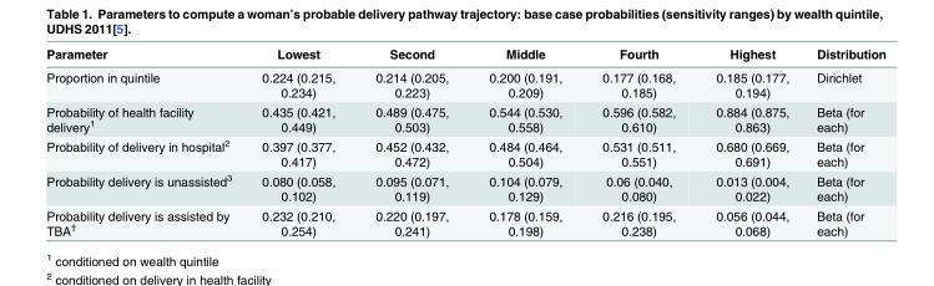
<table><thead><tr><td>Parameter</td><td>Lowest</td><td>Second</td><td>Middle</td><td>Fourth</td><td>Highest</td><td>Distribution</td></tr></thead><tbody><tr><td>Proportion in quintile</td><td>0.224 (0.215, 0.234)</td><td>0.214 (0.205, 0.223)</td><td>0.200 (0.191, 0.209)</td><td>0.177 (0.168, 0.185)</td><td>0.185 (0.177, 0.194)</td><td>Dirichlet</td></tr><tr><td>Probability of health facility delivery<sup>1</sup></td><td>0.435 (0.421, 0.449)</td><td>0.489 (0.475, 0.503)</td><td>0.544 (0.530, 0.558)</td><td>0.596 (0.582, 0.610)</td><td>0.884 (0.875, 0.863)</td><td>Beta (for each)</td></tr><tr><td>Probability of delivery in hospital<sup>2</sup></td><td>0.397 (0.377, 0.417)</td><td>0.452 (0.432, 0.472)</td><td>0.484 (0.464, 0.504)</td><td>0.531 (0.511, 0.551)</td><td>0.680 (0.669, 0.691)</td><td>Beta (for each)</td></tr><tr><td>Probability delivery is unassisted<sup>3</sup></td><td>0.080 (0.058, 0.102)</td><td>0.095 (0.071, 0.119)</td><td>0.104 (0.079, 0.129)</td><td>0.06 (0.040, 0.080)</td><td>0.013 (0.004, 0.022)</td><td>Beta (for each)</td></tr><tr><td>Probability delivery is assisted by TBA<sup>†</sup></td><td>0.232 (0.210, 0.254)</td><td>0.220 (0.197, 0.241)</td><td>0.178 (0.159, 0.198)</td><td>0.216 (0.195, 0.238)</td><td>0.056 (0.044, 0.068)</td><td>Beta (for each)</td></tr></tbody></table>